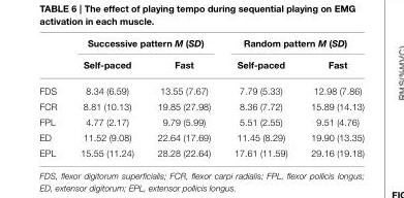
<table><thead><tr><td rowspan="2"></td><td colspan="2">Successive pattern M (SD)</td><td colspan="2">Random pattern M (SD)</td></tr><tr><td>Self-paced</td><td>Fast</td><td>Self-paced</td><td>Fast</td></tr></thead><tbody><tr><td>FDS</td><td>8.34 (6.59)</td><td>13.55 (7.67)</td><td>7.79 (5.33)</td><td>12.98 (7.86)</td></tr><tr><td>FCR</td><td>8.81 (10.13)</td><td>19.85 (27.98)</td><td>8.36 (7.72)</td><td>15.89 (14.13)</td></tr><tr><td>FPL</td><td>4.77 (2.17)</td><td>9.79 (5.99)</td><td>5.51 (2.55)</td><td>9.51 (4.76)</td></tr><tr><td>ED</td><td>11.52 (9.08)</td><td>22.64 (17.69)</td><td>11.45 (8.29)</td><td>19.90 (13.35)</td></tr><tr><td>EPL</td><td>15.55 (11.24)</td><td>28.28 (22.64)</td><td>17.61 (11.59)</td><td>29.16 (19.18)</td></tr></tbody></table>